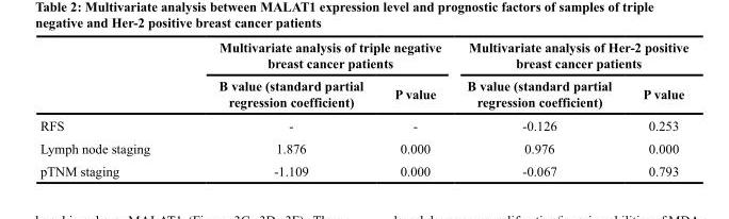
<table><thead><tr><td rowspan="2"></td><td colspan="2">Multivariate analysis of triple negative breast cancer patients</td><td colspan="2">Multivariate analysis of Her-2 positive breast cancer patients</td></tr><tr><td>B value (standard partial regression coefficient)</td><td>P value</td><td>B value (standard partial regression coefficient)</td><td>P value</td></tr></thead><tbody><tr><td>RFS</td><td>-</td><td>-</td><td>-0.126</td><td>0.253</td></tr><tr><td>Lymph node staging</td><td>1.876</td><td>0.000</td><td>0.976</td><td>0.000</td></tr><tr><td>pTNM staging</td><td>-1.109</td><td>0.000</td><td>-0.067</td><td>0.793</td></tr></tbody></table>